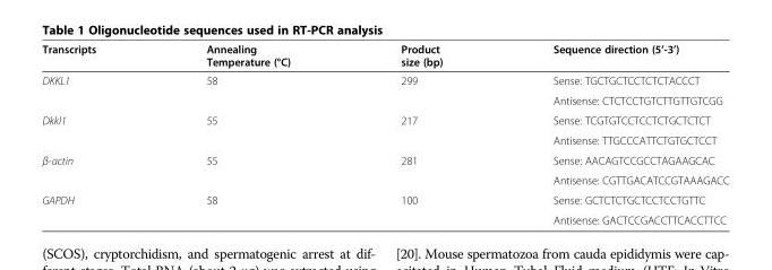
<table><thead><tr><td>Transcripts</td><td>Annealing Temperature (°C)</td><td>Product size (bp)</td><td>Sequence direction (5’-3’)</td></tr></thead><tbody><tr><td rowspan="2">DKKL1</td><td rowspan="2">58</td><td rowspan="2">299</td><td>Sense: TGCTGCTCCTCTCTACCCT</td></tr><tr><td>Antisense: CTCTCCTGTCTTGTTGTCGG</td></tr><tr><td rowspan="2">Dkkl1</td><td rowspan="2">55</td><td rowspan="2">217</td><td>Sense: TCGTGTCCTCCTCTGCTCTCT</td></tr><tr><td>Antisense: TTGCCCATTCTGTGCTCCT</td></tr><tr><td rowspan="2">β-actin</td><td rowspan="2">55</td><td rowspan="2">281</td><td>Sense: AACAGTCCGCCTAGAAGCAC</td></tr><tr><td>Antisense: CGTTGACATCCGTAAAGACC</td></tr><tr><td rowspan="2">GAPDH</td><td rowspan="2">58</td><td rowspan="2">100</td><td>Sense: GCTCTCTGCTCCTCCTGTTC</td></tr><tr><td>Antisense: GACTCCGACCTTCACCTTCC</td></tr></tbody></table>